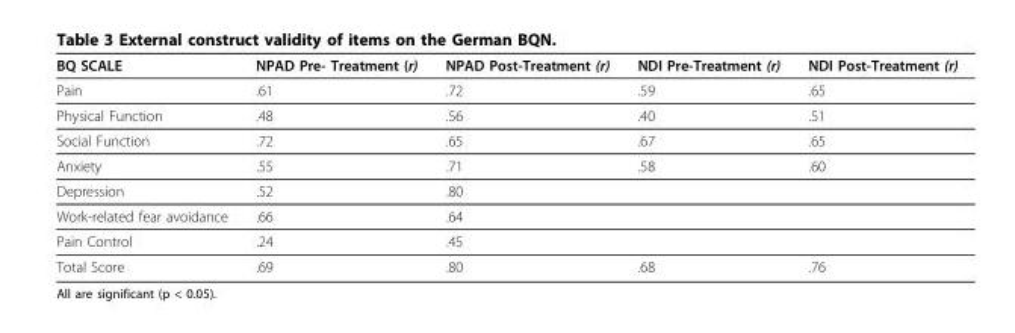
<table><thead><tr><td>BQ SCALE</td><td>NPAD Pre- Treatment (r)</td><td>NPAD Post-Treatment (r)</td><td>NDI Pre-Treatment (r)</td><td>NDI Post-Treatment (r)</td></tr></thead><tbody><tr><td>Pain</td><td>.61</td><td>.72</td><td>.59</td><td>.65</td></tr><tr><td>Physical Function</td><td>.48</td><td>.56</td><td>.40</td><td>.51</td></tr><tr><td>Social Function</td><td>.72</td><td>.65</td><td>.67</td><td>.65</td></tr><tr><td>Anxiety</td><td>.55</td><td>.71</td><td>.58</td><td>.60</td></tr><tr><td>Depression</td><td>.52</td><td>.80</td><td></td><td></td></tr><tr><td>Work-related fear avoidance</td><td>.66</td><td>.64</td><td></td><td></td></tr><tr><td>Pain Control</td><td>.24</td><td>.45</td><td></td><td></td></tr><tr><td>Total Score</td><td>.69</td><td>.80</td><td>.68</td><td>.76</td></tr></tbody></table>